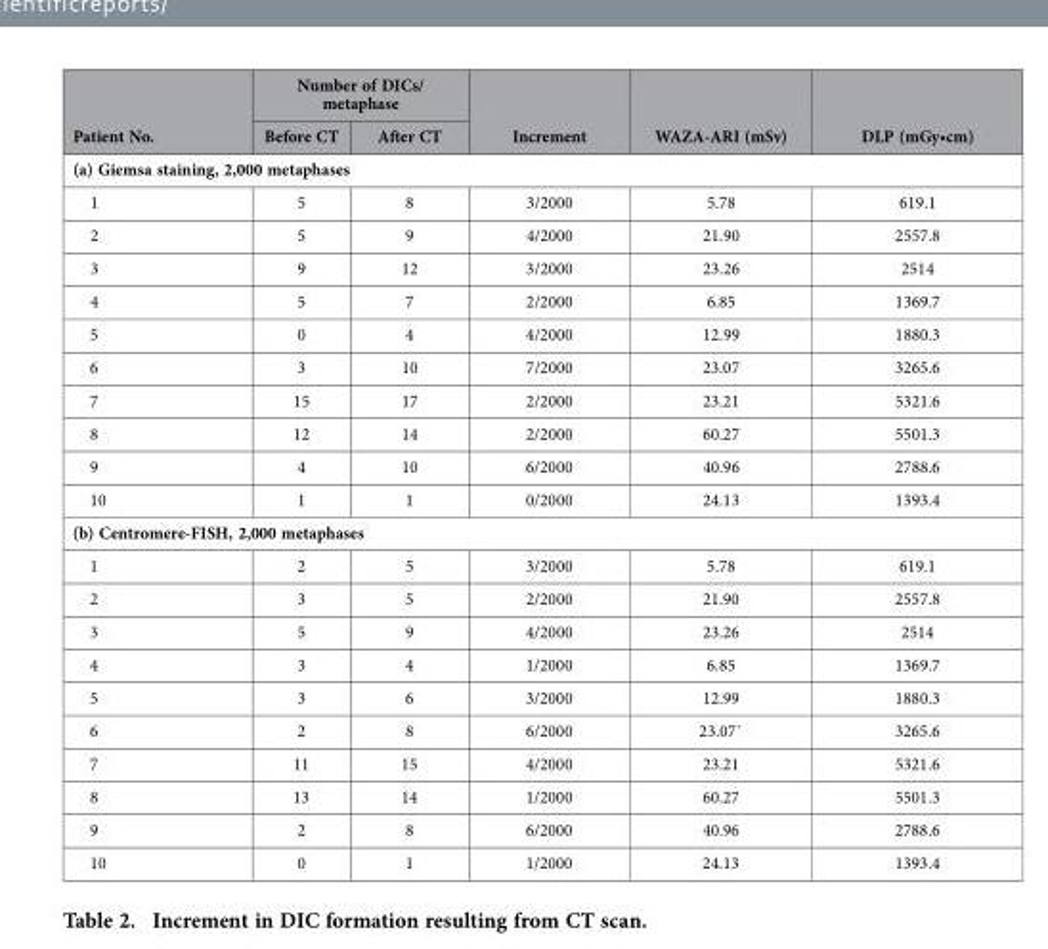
<table><thead><tr><td rowspan="2">Patient No.</td><td colspan="2">Number of DICs/ metaphase</td><td rowspan="2">Increment</td><td rowspan="2">WAZA-ARI (mSv)</td><td rowspan="2">DLP (mGy•cm)</td></tr><tr><td>Before CT</td><td>After CT</td></tr></thead><tbody><tr><td colspan="6">(a) Giemsa staining, 2,000 metaphases</td></tr><tr><td>1</td><td>5</td><td>8</td><td>3/2000</td><td>5.78</td><td>619.1</td></tr><tr><td>2</td><td>5</td><td>9</td><td>4/2000</td><td>21.90</td><td>2557.8</td></tr><tr><td>3</td><td>9</td><td>12</td><td>3/2000</td><td>23.26</td><td>2514</td></tr><tr><td>4</td><td>5</td><td>7</td><td>2/2000</td><td>6.85</td><td>1369.7</td></tr><tr><td>5</td><td>0</td><td>4</td><td>4/2000</td><td>12.99</td><td>1880.3</td></tr><tr><td>6</td><td>3</td><td>10</td><td>7/2000</td><td>23.07</td><td>3265.6</td></tr><tr><td>7</td><td>15</td><td>17</td><td>2/2000</td><td>23.21</td><td>5321.6</td></tr><tr><td>8</td><td>12</td><td>14</td><td>2/2000</td><td>60.27</td><td>5501.3</td></tr><tr><td>9</td><td>4</td><td>10</td><td>6/2000</td><td>40.96</td><td>2788.6</td></tr><tr><td>10</td><td>1</td><td>1</td><td>0/2000</td><td>24.13</td><td>1393.4</td></tr><tr><td colspan="6">(b) Centromere-FISH, 2,000 metaphases</td></tr><tr><td>1</td><td>2</td><td>5</td><td>3/2000</td><td>5.78</td><td>619.1</td></tr><tr><td>2</td><td>3</td><td>5</td><td>2/2000</td><td>21.90</td><td>2557.8</td></tr><tr><td>3</td><td>5</td><td>9</td><td>4/2000</td><td>23.26</td><td>2514</td></tr><tr><td>4</td><td>3</td><td>4</td><td>1/2000</td><td>6.85</td><td>1369.7</td></tr><tr><td>5</td><td>3</td><td>6</td><td>3/2000</td><td>12.99</td><td>1880.3</td></tr><tr><td>6</td><td>2</td><td>8</td><td>6/2000</td><td>23.07`</td><td>3265.6</td></tr><tr><td>7</td><td>11</td><td>15</td><td>4/2000</td><td>23.21</td><td>5321.6</td></tr><tr><td>8</td><td>13</td><td>14</td><td>1/2000</td><td>60.27</td><td>5501.3</td></tr><tr><td>9</td><td>2</td><td>8</td><td>6/2000</td><td>40.96</td><td>2788.6</td></tr><tr><td>10</td><td>0</td><td>1</td><td>1/2000</td><td>24.13</td><td>1393.4</td></tr></tbody></table>